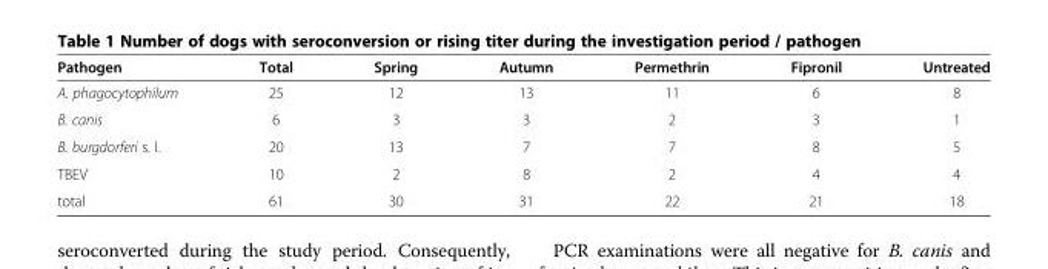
<table><thead><tr><td>Pathogen</td><td>Total</td><td>Spring</td><td>Autumn</td><td>Permethrin</td><td>Fipronil</td><td>Untreated</td></tr></thead><tbody><tr><td>A. phagocytophilum</td><td>25</td><td>12</td><td>13</td><td>11</td><td>6</td><td>8</td></tr><tr><td>B. canis</td><td>6</td><td>3</td><td>3</td><td>2</td><td>3</td><td>1</td></tr><tr><td>B. burgdorferi s. l.</td><td>20</td><td>13</td><td>7</td><td>7</td><td>8</td><td>5</td></tr><tr><td>TBEV</td><td>10</td><td>2</td><td>8</td><td>2</td><td>4</td><td>4</td></tr><tr><td>total</td><td>61</td><td>30</td><td>31</td><td>22</td><td>21</td><td>18</td></tr></tbody></table>